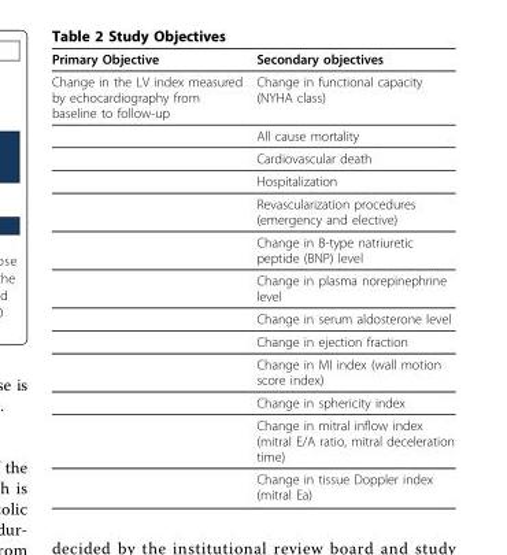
<table><thead><tr><td>Primary Objective</td><td>Secondary objectives</td></tr></thead><tbody><tr><td rowspan="13">Change in the LV index measured by echocardiography from baseline to follow-up</td><td>Change in functional capacity (NYHA class)</td></tr><tr><td>All cause mortality</td></tr><tr><td>Cardiovascular death</td></tr><tr><td>Hospitalization</td></tr><tr><td>Revascularization procedures (emergency and elective)</td></tr><tr><td>Change in B-type natriuretic peptide (BNP) level</td></tr><tr><td>Change in plasma norepinephrine level</td></tr><tr><td>Change in serum aldosterone level</td></tr><tr><td>Change in ejection fraction</td></tr><tr><td>Change in MI index (wall motion score index)</td></tr><tr><td>Change in sphericity index</td></tr><tr><td>Change in mitral inflow index (mitral E/A ratio, mitral deceleration time)</td></tr><tr><td>Change in tissue Doppler index (mitral Ea)</td></tr></tbody></table>